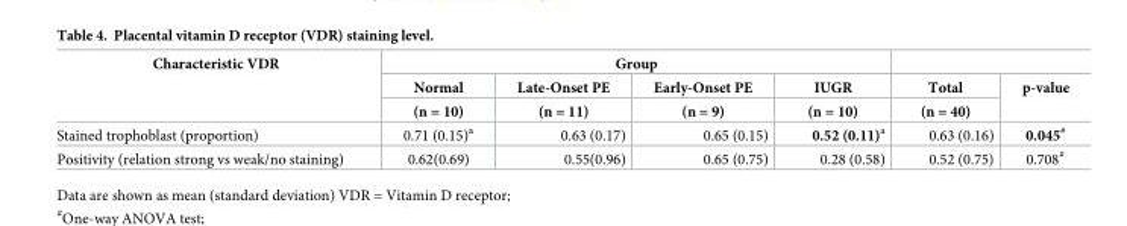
<table><thead><tr><td rowspan="3">Characteristic VDR</td><td colspan="4">Group</td><td rowspan="3">Total (n = 40)</td><td rowspan="3">p-value</td></tr><tr><td rowspan="2">Normal (n = 10)</td><td rowspan="2">Late-Onset PE (n = 11)</td><td rowspan="2">Early-Onset PE (n = 9)</td><td rowspan="2">IUGR (n = 10)</td></tr><tr></tr></thead><tbody><tr><td>Stained trophoblast (proportion)</td><td>0.71 (0.15)<sup>a</sup></td><td>0.63 (0.17)</td><td>0.65 (0.15)</td><td>0.52 (0.11)<sup>a</sup></td><td>0.63 (0.16)</td><td>0.045<sup>#</sup></td></tr><tr><td>Positivity (relation strong vs weak/no staining)</td><td>0.62(0.69)</td><td>0.55(0.96)</td><td>0.65 (0.75)</td><td>0.28 (0.58)</td><td>0.52 (0.75)</td><td>0.708<sup>#</sup></td></tr></tbody></table>